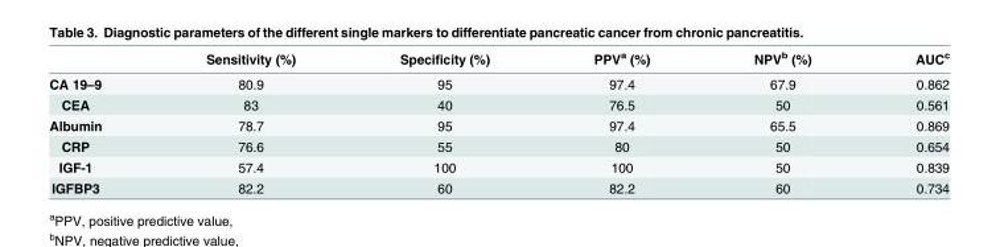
<table><thead><tr><td></td><td>Sensitivity (%)</td><td>Specificity (%)</td><td>PPV<sup>a</sup> (%)</td><td>NPV<sup>b</sup> (%)</td><td>AUC<sup>c</sup></td></tr></thead><tbody><tr><td>CA 19–9</td><td>80.9</td><td>95</td><td>97.4</td><td>67.9</td><td>0.862</td></tr><tr><td>CEA</td><td>83</td><td>40</td><td>76.5</td><td>50</td><td>0.561</td></tr><tr><td>Albumin</td><td>78.7</td><td>95</td><td>97.4</td><td>65.5</td><td>0.869</td></tr><tr><td>CRP</td><td>76.6</td><td>55</td><td>80</td><td>50</td><td>0.654</td></tr><tr><td>IGF-1</td><td>57.4</td><td>100</td><td>100</td><td>50</td><td>0.839</td></tr><tr><td>IGFBP3</td><td>82.2</td><td>60</td><td>82.2</td><td>60</td><td>0.734</td></tr></tbody></table>